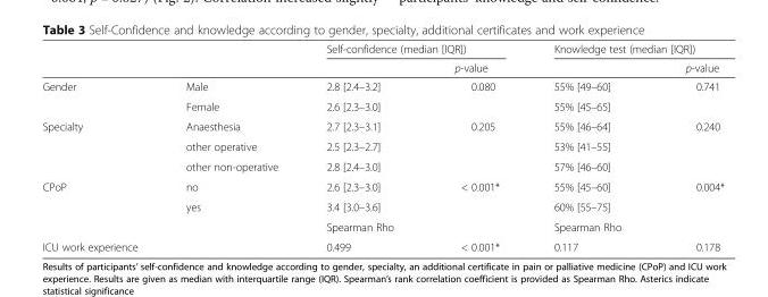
<table><thead><tr><td rowspan="2"></td><td rowspan="2"></td><td colspan="2">Self-confidence (median [IQR])</td><td colspan="2">Knowledge test (median [IQR])</td></tr><tr><td></td><td>p-value</td><td></td><td>p-value</td></tr></thead><tbody><tr><td rowspan="2">Gender</td><td>Male</td><td>2.8 [2.4–3.2]</td><td rowspan="2">0.080</td><td>55% [49–60]</td><td rowspan="2">0.741</td></tr><tr><td>Female</td><td>2.6 [2.3–3.0]</td><td>55% [45–65]</td></tr><tr><td rowspan="3">Specialty</td><td>Anaesthesia</td><td>2.7 [2.3–3.1]</td><td rowspan="3">0.205</td><td>55% [46–64]</td><td rowspan="3">0.240</td></tr><tr><td>other operative</td><td>2.5 [2.3–2.7]</td><td>53% [41–55]</td></tr><tr><td>other non-operative</td><td>2.8 [2.4–3.0]</td><td>57% [46–60]</td></tr><tr><td rowspan="3">CPoP</td><td>no</td><td>2.6 [2.3–3.0]</td><td rowspan="2">&lt; 0.001*</td><td>55% [45–60]</td><td rowspan="2">0.004*</td></tr><tr><td>yes</td><td>3.4 [3.0–3.6]</td><td>60% [55–75]</td></tr><tr><td></td><td>Spearman Rho</td><td></td><td>Spearman Rho</td><td></td></tr><tr><td>ICU work experience</td><td></td><td>0.499</td><td>&lt; 0.001*</td><td>0.117</td><td>0.178</td></tr></tbody></table>